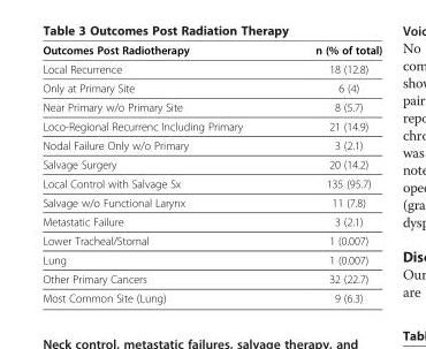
<table><thead><tr><td>Outcomes Post Radiotherapy</td><td>n (% of total)</td></tr></thead><tbody><tr><td>Local Recurrence</td><td>18 (12.8)</td></tr><tr><td>Only at Primary Site</td><td>6 (4)</td></tr><tr><td>Near Primary w/o Primary Site</td><td>8 (5.7)</td></tr><tr><td>Loco-Regional Recurrenc Including Primary</td><td>21 (14.9)</td></tr><tr><td>Nodal Failure Only w/o Primary</td><td>3 (2.1)</td></tr><tr><td>Salvage Surgery</td><td>20 (14.2)</td></tr><tr><td>Local Control with Salvage Sx</td><td>135 (95.7)</td></tr><tr><td>Salvage w/o Functional Larynx</td><td>11 (7.8)</td></tr><tr><td>Metastatic Failure</td><td>3 (2.1)</td></tr><tr><td>Lower Tracheal/Stomal</td><td>1 (0.007)</td></tr><tr><td>Lung</td><td>1 (0.007)</td></tr><tr><td>Other Primary Cancers</td><td>32 (22.7)</td></tr><tr><td>Most Common Site (Lung)</td><td>9 (6.3)</td></tr></tbody></table>